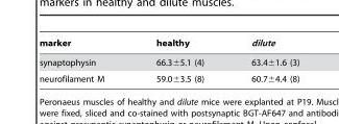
<table><thead><tr><td>marker</td><td>healthy</td><td>dilute</td></tr></thead><tbody><tr><td>synaptophysin</td><td>66.3±5.1 (4)</td><td>63.4±1.6 (3)</td></tr><tr><td>neurofilament M</td><td>59.0±3.5 (8)</td><td>60.7±4.4 (8)</td></tr></tbody></table>